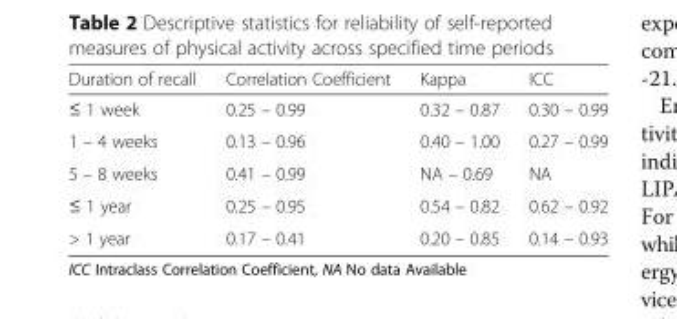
<table><thead><tr><td>Duration of recall</td><td>Correlation Coefficient</td><td>Kappa</td><td>ICC</td></tr></thead><tbody><tr><td>≤ 1 week</td><td>0.25 – 0.99</td><td>0.32 – 0.87</td><td>0.30 – 0.99</td></tr><tr><td>1 – 4 weeks</td><td>0.13 – 0.96</td><td>0.40 – 1.00</td><td>0.27 – 0.99</td></tr><tr><td>5 – 8 weeks</td><td>0.41 – 0.99</td><td>NA – 0.69</td><td>NA</td></tr><tr><td>≤ 1 year</td><td>0.25 – 0.95</td><td>0.54 – 0.82</td><td>0.62 – 0.92</td></tr><tr><td>&gt; 1 year</td><td>0.17 – 0.41</td><td>0.20 – 0.85</td><td>0.14 – 0.93</td></tr></tbody></table>